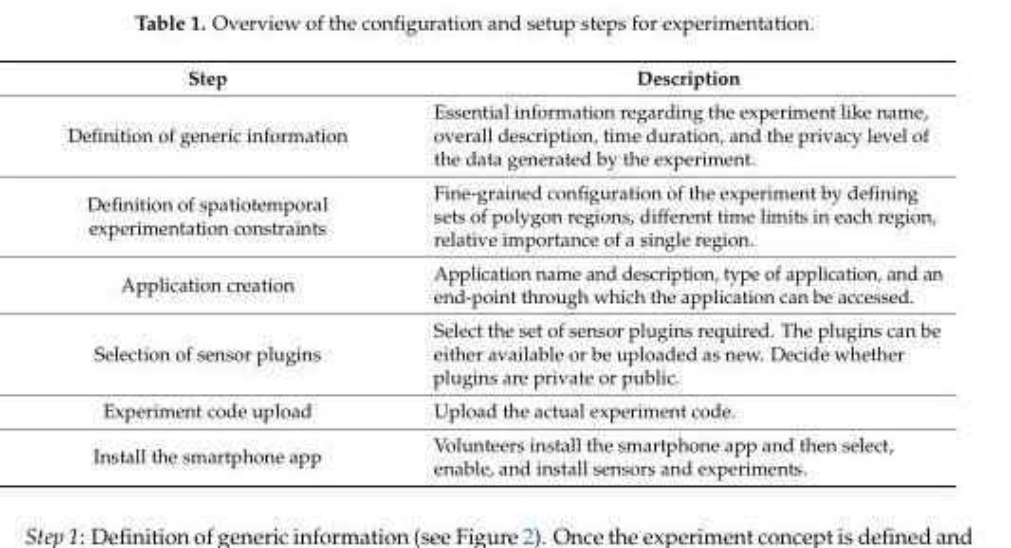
<table><thead><tr><td>Step</td><td>Description</td></tr></thead><tbody><tr><td>Definition of generic information</td><td>Essential information regarding the experiment like name, overall description, time duration, and the privacy level of the data generated by the experiment.</td></tr><tr><td>Definition of spatiotemporal experimentation constraints</td><td>Fine-grained configuration of the experiment by defining sets of polygon regions, different time limits in each region, relative importance of a single region.</td></tr><tr><td>Application creation</td><td>Application name and description, type of application, and an end-point through which the application can be accessed.</td></tr><tr><td>Selection of sensor plugins</td><td>Select the set of sensor plugins required. The plugins can be either available or be uploaded as new. Decide whether plugins are private or public.</td></tr><tr><td>Experiment code upload</td><td>Upload the actual experiment code.</td></tr><tr><td>Install the smartphone app</td><td>Volunteers install the smartphone app and then select, enable, and install sensors and experiments.</td></tr></tbody></table>